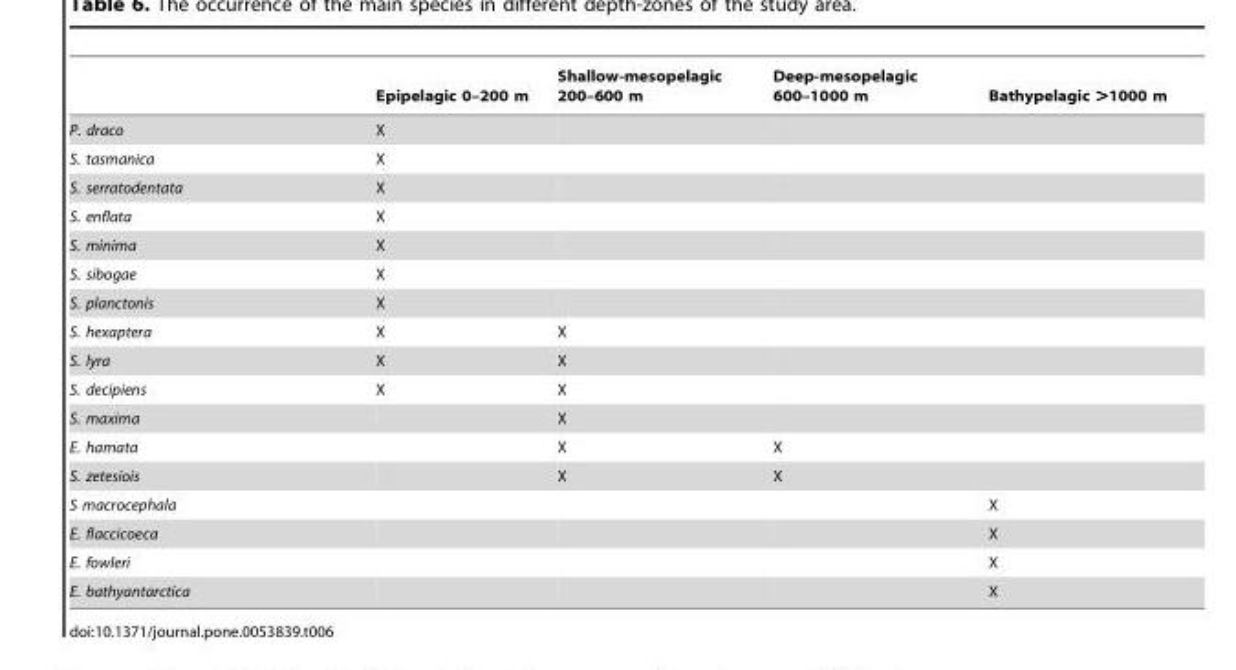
<table><thead><tr><td></td><td>Epipelagic 0–200 m</td><td>Shallow-mesopelagic 200–600 m</td><td>Deep-mesopelagic 600–1000 m</td><td>Bathypelagic &gt;1000 m</td></tr></thead><tbody><tr><td>P. draco</td><td>X</td><td></td><td></td><td></td></tr><tr><td>S. tasmanica</td><td>X</td><td></td><td></td><td></td></tr><tr><td>S. serratodentata</td><td>X</td><td></td><td></td><td></td></tr><tr><td>S. enflata</td><td>X</td><td></td><td></td><td></td></tr><tr><td>S. minima</td><td>X</td><td></td><td></td><td></td></tr><tr><td>S. sibogae</td><td>X</td><td></td><td></td><td></td></tr><tr><td>S. planctonis</td><td>X</td><td></td><td></td><td></td></tr><tr><td>S. hexaptera</td><td>X</td><td>X</td><td></td><td></td></tr><tr><td>S. lyra</td><td>X</td><td>X</td><td></td><td></td></tr><tr><td>S. decipiens</td><td>X</td><td>X</td><td></td><td></td></tr><tr><td>S. maxima</td><td></td><td>X</td><td></td><td></td></tr><tr><td>E. hamata</td><td></td><td>X</td><td>X</td><td></td></tr><tr><td>S. zetesiois</td><td></td><td>X</td><td>X</td><td></td></tr><tr><td>S macrocephala</td><td></td><td></td><td></td><td>X</td></tr><tr><td>E. flaccicoeca</td><td></td><td></td><td></td><td>X</td></tr><tr><td>E. fowleri</td><td></td><td></td><td></td><td>X</td></tr><tr><td>E. bathyantarctica</td><td></td><td></td><td></td><td>X</td></tr></tbody></table>